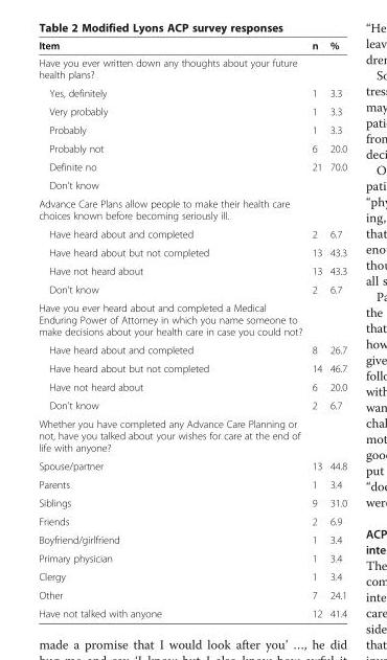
<table><thead><tr><td>Item</td><td>n</td><td>%</td></tr></thead><tbody><tr><td colspan="3">Have you ever written down any thoughts about your future health plans?</td></tr><tr><td>Yes, definitely</td><td>1</td><td>3.3</td></tr><tr><td>Very probably</td><td>1</td><td>3.3</td></tr><tr><td>Probably</td><td>1</td><td>3.3</td></tr><tr><td>Probably not</td><td>6</td><td>20.0</td></tr><tr><td>Definite no</td><td>21</td><td>70.0</td></tr><tr><td colspan="3">Don&#x27;t know</td></tr><tr><td colspan="3">Advance Care Plans allow people to make their health care choices known before becoming seriously ill.</td></tr><tr><td>Have heard about and completed</td><td>2</td><td>6.7</td></tr><tr><td>Have heard about but not completed</td><td>13</td><td>43.3</td></tr><tr><td>Have not heard about</td><td>13</td><td>43.3</td></tr><tr><td>Don&#x27;t know</td><td>2</td><td>6.7</td></tr><tr><td colspan="3">Have you ever heard about and completed a Medical Enduring Power of Attorney in which you name someone to make decisions about your health care in case you could not?</td></tr><tr><td>Have heard about and completed</td><td>8</td><td>26.7</td></tr><tr><td>Have heard about but not completed</td><td>14</td><td>46.7</td></tr><tr><td>Have not heard about</td><td>6</td><td>20.0</td></tr><tr><td>Don&#x27;t know</td><td>2</td><td>6.7</td></tr><tr><td colspan="3">Whether you have completed any Advance Care Planning or not, have you talked about your wishes for care at the end of life with anyone?</td></tr><tr><td>Spouse/partner</td><td>13</td><td>44.8</td></tr><tr><td>Parents</td><td>1</td><td>3.4</td></tr><tr><td>Siblings</td><td>9</td><td>31.0</td></tr><tr><td>Friends</td><td>2</td><td>6.9</td></tr><tr><td>Boyfriend/girlfriend</td><td>1</td><td>3.4</td></tr><tr><td>Primary physician</td><td>1</td><td>3.4</td></tr><tr><td>Clergy</td><td>1</td><td>3.4</td></tr><tr><td>Other</td><td>7</td><td>24.1</td></tr><tr><td>Have not talked with anyone</td><td>12</td><td>41.4</td></tr></tbody></table>